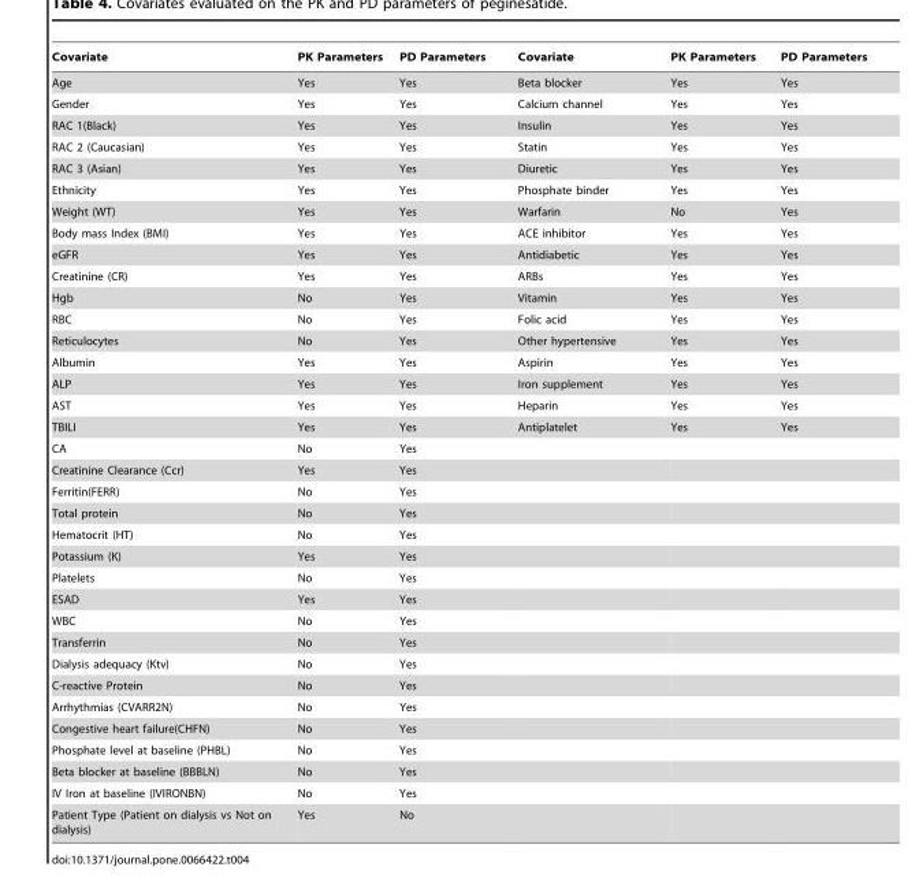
<table><thead><tr><td>Covariate</td><td>PK Parameters</td><td>PD Parameters</td><td>Covariate</td><td>PK Parameters</td><td>PD Parameters</td></tr></thead><tbody><tr><td>Age</td><td>Yes</td><td>Yes</td><td>Beta blocker</td><td>Yes</td><td>Yes</td></tr><tr><td>Gender</td><td>Yes</td><td>Yes</td><td>Calcium channel</td><td>Yes</td><td>Yes</td></tr><tr><td>RAC 1(Black)</td><td>Yes</td><td>Yes</td><td>Insulin</td><td>Yes</td><td>Yes</td></tr><tr><td>RAC 2 (Caucasian)</td><td>Yes</td><td>Yes</td><td>Statin</td><td>Yes</td><td>Yes</td></tr><tr><td>RAC 3 (Asian)</td><td>Yes</td><td>Yes</td><td>Diuretic</td><td>Yes</td><td>Yes</td></tr><tr><td>Ethnicity</td><td>Yes</td><td>Yes</td><td>Phosphate binder</td><td>Yes</td><td>Yes</td></tr><tr><td>Weight (WT)</td><td>Yes</td><td>Yes</td><td>Warfarin</td><td>No</td><td>Yes</td></tr><tr><td>Body mass Index (BMI)</td><td>Yes</td><td>Yes</td><td>ACE inhibitor</td><td>Yes</td><td>Yes</td></tr><tr><td>eGFR</td><td>Yes</td><td>Yes</td><td>Antidiabetic</td><td>Yes</td><td>Yes</td></tr><tr><td>Creatinine (CR)</td><td>Yes</td><td>Yes</td><td>ARBs</td><td>Yes</td><td>Yes</td></tr><tr><td>Hgb</td><td>No</td><td>Yes</td><td>Vitamin</td><td>Yes</td><td>Yes</td></tr><tr><td>RBC</td><td>No</td><td>Yes</td><td>Folic acid</td><td>Yes</td><td>Yes</td></tr><tr><td>Reticulocytes</td><td>No</td><td>Yes</td><td>Other hypertensive</td><td>Yes</td><td>Yes</td></tr><tr><td>Albumin</td><td>Yes</td><td>Yes</td><td>Aspirin</td><td>Yes</td><td>Yes</td></tr><tr><td>ALP</td><td>Yes</td><td>Yes</td><td>Iron supplement</td><td>Yes</td><td>Yes</td></tr><tr><td>AST</td><td>Yes</td><td>Yes</td><td>Heparin</td><td>Yes</td><td>Yes</td></tr><tr><td>TBILI</td><td>Yes</td><td>Yes</td><td>Antiplatelet</td><td>Yes</td><td>Yes</td></tr><tr><td>CA</td><td>No</td><td>Yes</td><td></td><td></td><td></td></tr><tr><td>Creatinine Clearance (Ccr)</td><td>Yes</td><td>Yes</td><td></td><td></td><td></td></tr><tr><td>Ferritin(FERR)</td><td>No</td><td>Yes</td><td></td><td></td><td></td></tr><tr><td>Total protein</td><td>No</td><td>Yes</td><td></td><td></td><td></td></tr><tr><td>Hematocrit (HT)</td><td>No</td><td>Yes</td><td></td><td></td><td></td></tr><tr><td>Potassium (K)</td><td>Yes</td><td>Yes</td><td></td><td></td><td></td></tr><tr><td>Platelets</td><td>No</td><td>Yes</td><td></td><td></td><td></td></tr><tr><td>ESAD</td><td>Yes</td><td>Yes</td><td></td><td></td><td></td></tr><tr><td>WBC</td><td>No</td><td>Yes</td><td></td><td></td><td></td></tr><tr><td>Transferrin</td><td>No</td><td>Yes</td><td></td><td></td><td></td></tr><tr><td>Dialysis adequacy (Ktv)</td><td>No</td><td>Yes</td><td></td><td></td><td></td></tr><tr><td>C-reactive Protein</td><td>No</td><td>Yes</td><td></td><td></td><td></td></tr><tr><td>Arrhythmias (CVARR2N)</td><td>No</td><td>Yes</td><td></td><td></td><td></td></tr><tr><td>Congestive heart failure(CHFN)</td><td>No</td><td>Yes</td><td></td><td></td><td></td></tr><tr><td>Phosphate level at baseline (PHBL)</td><td>No</td><td>Yes</td><td></td><td></td><td></td></tr><tr><td>Beta blocker at baseline (BBBLN)</td><td>No</td><td>Yes</td><td></td><td></td><td></td></tr><tr><td>IV Iron at baseline (IVIRONBN)</td><td>No</td><td>Yes</td><td></td><td></td><td></td></tr><tr><td>Patient Type (Patient on dialysis vs Not on dialysis)</td><td>Yes</td><td>No</td><td></td><td></td><td></td></tr></tbody></table>